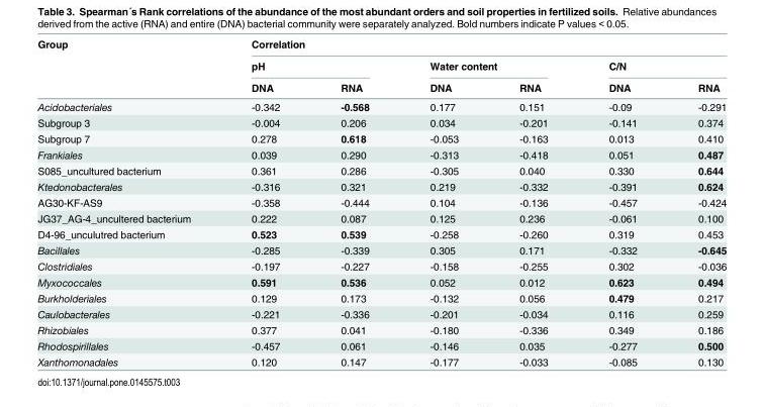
<table><thead><tr><td rowspan="3">Group</td><td colspan="6">Correlation</td></tr><tr><td colspan="2">pH</td><td colspan="2">Water content</td><td colspan="2">C/N</td></tr><tr><td>DNA</td><td>RNA</td><td>DNA</td><td>RNA</td><td>DNA</td><td>RNA</td></tr></thead><tbody><tr><td>Acidobacteriales</td><td>-0.342</td><td>-0.568</td><td>0.177</td><td>0.151</td><td>-0.09</td><td>-0.291</td></tr><tr><td>Subgroup 3</td><td>-0.004</td><td>0.206</td><td>0.034</td><td>-0.201</td><td>-0.141</td><td>0.374</td></tr><tr><td>Subgroup 7</td><td>0.278</td><td>0.618</td><td>-0.053</td><td>-0.163</td><td>0.013</td><td>0.410</td></tr><tr><td>Frankiales</td><td>0.039</td><td>0.290</td><td>-0.313</td><td>-0.418</td><td>0.051</td><td>0.487</td></tr><tr><td>S085_uncultured bacterium</td><td>0.361</td><td>0.286</td><td>-0.305</td><td>0.040</td><td>0.330</td><td>0.644</td></tr><tr><td>Ktedonobacterales</td><td>-0.316</td><td>0.321</td><td>0.219</td><td>-0.332</td><td>-0.391</td><td>0.624</td></tr><tr><td>AG30-KF-AS9</td><td>-0.358</td><td>-0.444</td><td>0.104</td><td>-0.136</td><td>-0.457</td><td>-0.424</td></tr><tr><td>JG37_AG-4_uncultered bacterium</td><td>0.222</td><td>0.087</td><td>0.125</td><td>0.236</td><td>-0.061</td><td>0.100</td></tr><tr><td>D4-96_unculutred bacterium</td><td>0.523</td><td>0.539</td><td>-0.258</td><td>-0.260</td><td>0.319</td><td>0.453</td></tr><tr><td>Bacillales</td><td>-0.285</td><td>-0.339</td><td>0.305</td><td>0.171</td><td>-0.332</td><td>-0.645</td></tr><tr><td>Clostridiales</td><td>-0.197</td><td>-0.227</td><td>-0.158</td><td>-0.255</td><td>0.302</td><td>-0.036</td></tr><tr><td>Myxococcales</td><td>0.591</td><td>0.536</td><td>0.052</td><td>0.012</td><td>0.623</td><td>0.494</td></tr><tr><td>Burkholderiales</td><td>0.129</td><td>0.173</td><td>-0.132</td><td>0.056</td><td>0.479</td><td>0.217</td></tr><tr><td>Caulobacterales</td><td>-0.221</td><td>-0.336</td><td>-0.201</td><td>-0.034</td><td>0.116</td><td>0.259</td></tr><tr><td>Rhizobiales</td><td>0.377</td><td>0.041</td><td>-0.180</td><td>-0.336</td><td>0.349</td><td>0.186</td></tr><tr><td>Rhodospirillales</td><td>-0.457</td><td>0.061</td><td>-0.146</td><td>0.035</td><td>-0.277</td><td>0.500</td></tr><tr><td>Xanthomonadales</td><td>0.120</td><td>0.147</td><td>-0.177</td><td>-0.033</td><td>-0.085</td><td>0.130</td></tr></tbody></table>